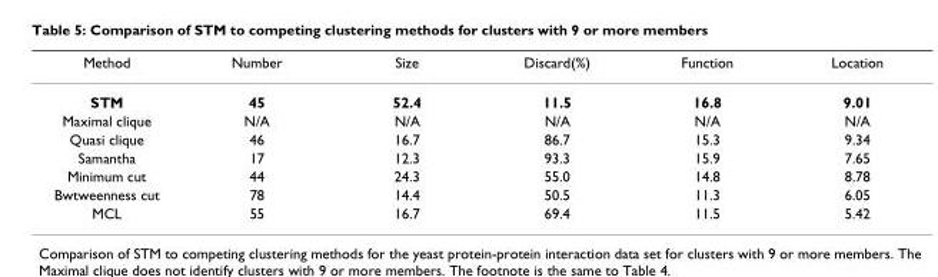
<table><thead><tr><td>Method</td><td>Number</td><td>Size</td><td>Discard(%)</td><td>Function</td><td>Location</td></tr></thead><tbody><tr><td>STM</td><td>45</td><td>52.4</td><td>11.5</td><td>16.8</td><td>9.01</td></tr><tr><td>Maximal clique</td><td>N/A</td><td>N/A</td><td>N/A</td><td>N/A</td><td>N/A</td></tr><tr><td>Quasi clique</td><td>46</td><td>16.7</td><td>86.7</td><td>15.3</td><td>9.34</td></tr><tr><td>Samantha</td><td>17</td><td>12.3</td><td>93.3</td><td>15.9</td><td>7.65</td></tr><tr><td>Minimum cut</td><td>44</td><td>24.3</td><td>55.0</td><td>14.8</td><td>8.78</td></tr><tr><td>Bwtweenness cut</td><td>78</td><td>14.4</td><td>50.5</td><td>11.3</td><td>6.05</td></tr><tr><td>MCL</td><td>55</td><td>16.7</td><td>69.4</td><td>11.5</td><td>5.42</td></tr></tbody></table>